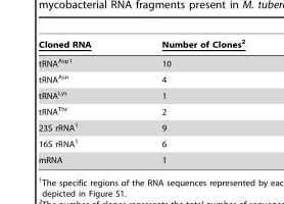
<table><thead><tr><td>Cloned RNA</td><td>Number of Clones2</td></tr></thead><tbody><tr><td>tRNA<sup>Asp</sup>1</td><td>10</td></tr><tr><td>tRNA<sup>Asn</sup></td><td>4</td></tr><tr><td>tRNA<sup>Lys</sup></td><td>1</td></tr><tr><td>tRNA<sup>Thr</sup></td><td>2</td></tr><tr><td>23S rRNA<sup>1</sup></td><td>9</td></tr><tr><td>16S rRNA<sup>1</sup></td><td>6</td></tr><tr><td>mRNA</td><td>1</td></tr></tbody></table>